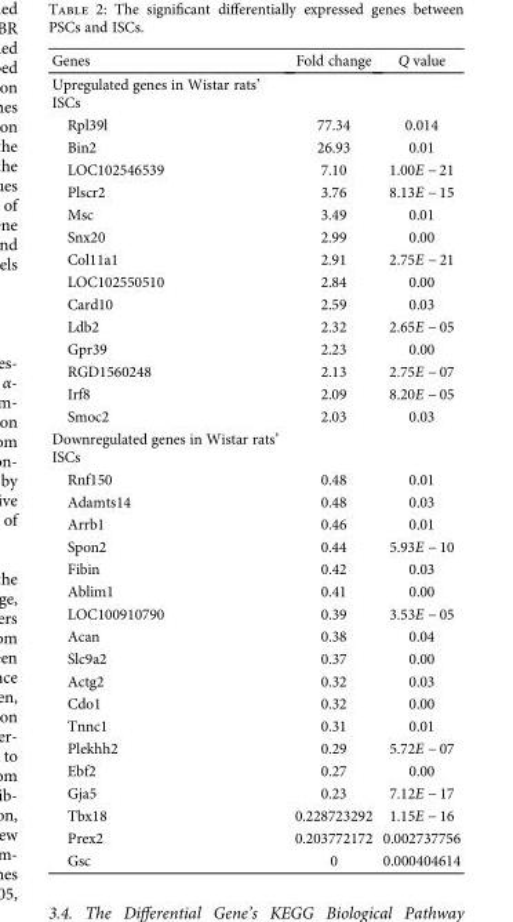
<table><thead><tr><td>Genes</td><td>Fold change</td><td>Q value</td></tr></thead><tbody><tr><td colspan="3">Upregulated genes in Wistar rats’ ISCs</td></tr><tr><td>Rpl39l</td><td>77.34</td><td>0.014</td></tr><tr><td>Bin2</td><td>26.93</td><td>0.01</td></tr><tr><td>LOC102546539</td><td>7.10</td><td>1.00E − 21</td></tr><tr><td>Plscr2</td><td>3.76</td><td>8.13E − 15</td></tr><tr><td>Msc</td><td>3.49</td><td>0.01</td></tr><tr><td>Snx20</td><td>2.99</td><td>0.00</td></tr><tr><td>Col11a1</td><td>2.91</td><td>2.75E − 21</td></tr><tr><td>LOC102550510</td><td>2.84</td><td>0.00</td></tr><tr><td>Card10</td><td>2.59</td><td>0.03</td></tr><tr><td>Ldb2</td><td>2.32</td><td>2.65E − 05</td></tr><tr><td>Gpr39</td><td>2.23</td><td>0.00</td></tr><tr><td>RGD1560248</td><td>2.13</td><td>2.75E − 07</td></tr><tr><td>Irf8</td><td>2.09</td><td>8.20E − 05</td></tr><tr><td>Smoc2</td><td>2.03</td><td>0.03</td></tr><tr><td colspan="3">Downregulated genes in Wistar rats’ ISCs</td></tr><tr><td>Rnf150</td><td>0.48</td><td>0.01</td></tr><tr><td>Adamts14</td><td>0.48</td><td>0.03</td></tr><tr><td>Arrb1</td><td>0.46</td><td>0.01</td></tr><tr><td>Spon2</td><td>0.44</td><td>5.93E − 10</td></tr><tr><td>Fibin</td><td>0.42</td><td>0.03</td></tr><tr><td>Ablim1</td><td>0.41</td><td>0.00</td></tr><tr><td>LOC100910790</td><td>0.39</td><td>3.53E − 05</td></tr><tr><td>Acan</td><td>0.38</td><td>0.04</td></tr><tr><td>Slc9a2</td><td>0.37</td><td>0.00</td></tr><tr><td>Actg2</td><td>0.32</td><td>0.03</td></tr><tr><td>Cdo1</td><td>0.32</td><td>0.00</td></tr><tr><td>Tnnc1</td><td>0.31</td><td>0.01</td></tr><tr><td>Plekhh2</td><td>0.29</td><td>5.72E − 07</td></tr><tr><td>Ebf2</td><td>0.27</td><td>0.00</td></tr><tr><td>Gja5</td><td>0.23</td><td>7.12E − 17</td></tr><tr><td>Tbx18</td><td>0.228723292</td><td>1.15E − 16</td></tr><tr><td>Prex2</td><td>0.203772172</td><td>0.002737756</td></tr><tr><td>Gsc</td><td>0</td><td>0.000404614</td></tr></tbody></table>